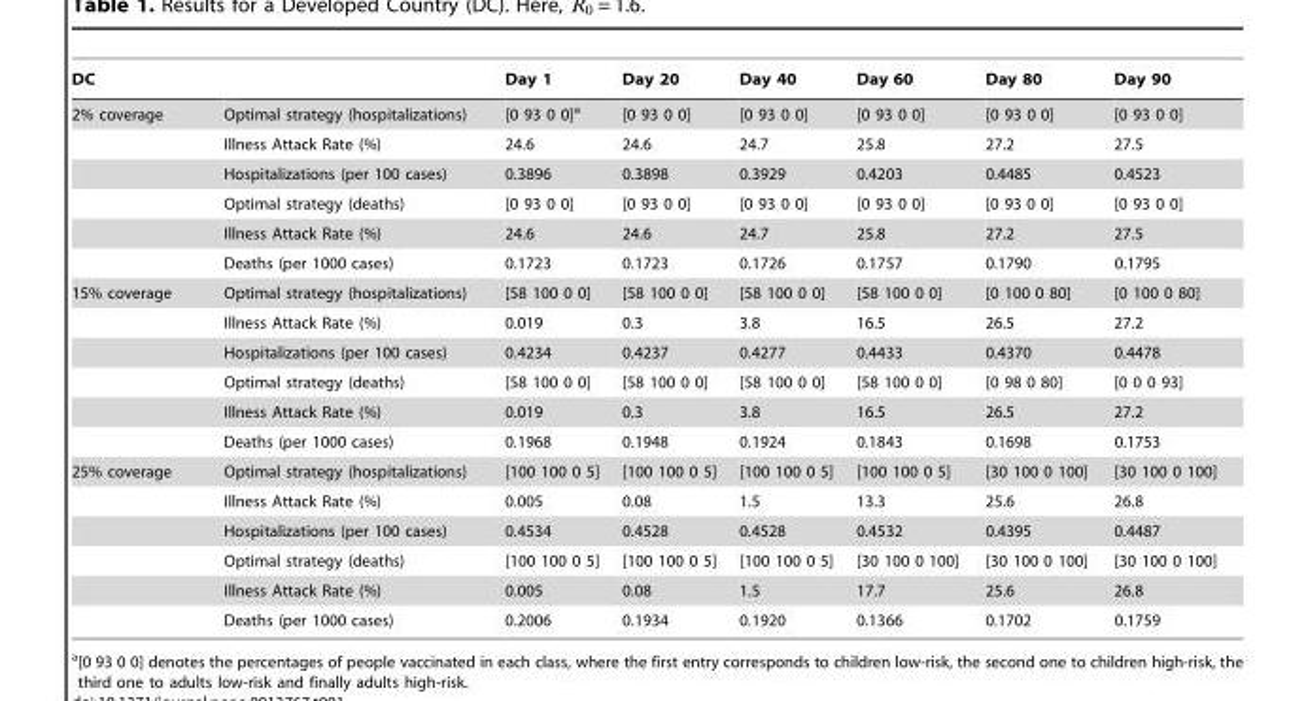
<table><thead><tr><td>DC</td><td></td><td>Day 1</td><td>Day 20</td><td>Day 40</td><td>Day 60</td><td>Day 80</td><td>Day 90</td></tr></thead><tbody><tr><td rowspan="6">2% coverage</td><td>Optimal strategy (hospitalizations)</td><td>[0 93 0 0]<sup>a</sup></td><td>[0 93 0 0]</td><td>[0 93 0 0]</td><td>[0 93 0 0]</td><td>[0 93 0 0]</td><td>[0 93 0 0]</td></tr><tr><td>Illness Attack Rate (%)</td><td>24.6</td><td>24.6</td><td>24.7</td><td>25.8</td><td>27.2</td><td>27.5</td></tr><tr><td>Hospitalizations (per 100 cases)</td><td>0.3896</td><td>0.3898</td><td>0.3929</td><td>0.4203</td><td>0.4485</td><td>0.4523</td></tr><tr><td>Optimal strategy (deaths)</td><td>[0 93 0 0]</td><td>[0 93 0 0]</td><td>[0 93 0 0]</td><td>[0 93 0 0]</td><td>[0 93 0 0]</td><td>[0 93 0 0]</td></tr><tr><td>Illness Attack Rate (%)</td><td>24.6</td><td>24.6</td><td>24.7</td><td>25.8</td><td>27.2</td><td>27.5</td></tr><tr><td>Deaths (per 1000 cases)</td><td>0.1723</td><td>0.1723</td><td>0.1726</td><td>0.1757</td><td>0.1790</td><td>0.1795</td></tr><tr><td rowspan="6">15% coverage</td><td>Optimal strategy (hospitalizations)</td><td>[58 100 0 0]</td><td>[58 100 0 0]</td><td>[58 100 0 0]</td><td>[58 100 0 0]</td><td>[0 100 0 80]</td><td>[0 100 0 80]</td></tr><tr><td>Illness Attack Rate (%)</td><td>0.019</td><td>0.3</td><td>3.8</td><td>16.5</td><td>26.5</td><td>27.2</td></tr><tr><td>Hospitalizations (per 100 cases)</td><td>0.4234</td><td>0.4237</td><td>0.4277</td><td>0.4433</td><td>0.4370</td><td>0.4478</td></tr><tr><td>Optimal strategy (deaths)</td><td>[58 100 0 0]</td><td>[58 100 0 0]</td><td>[58 100 0 0]</td><td>[58 100 0 0]</td><td>[0 98 0 80]</td><td>[0 0 0 93]</td></tr><tr><td>Illness Attack Rate (%)</td><td>0.019</td><td>0.3</td><td>3.8</td><td>16.5</td><td>26.5</td><td>27.2</td></tr><tr><td>Deaths (per 1000 cases)</td><td>0.1968</td><td>0.1948</td><td>0.1924</td><td>0.1843</td><td>0.1698</td><td>0.1753</td></tr><tr><td rowspan="6">25% coverage</td><td>Optimal strategy (hospitalizations)</td><td>[100 100 0 5]</td><td>[100 100 0 5]</td><td>[100 100 0 5]</td><td>[100 100 0 5]</td><td>[30 100 0 100]</td><td>[30 100 0 100]</td></tr><tr><td>Illness Attack Rate (%)</td><td>0.005</td><td>0.08</td><td>1.5</td><td>13.3</td><td>25.6</td><td>26.8</td></tr><tr><td>Hospitalizations (per 100 cases)</td><td>0.4534</td><td>0.4528</td><td>0.4528</td><td>0.4532</td><td>0.4395</td><td>0.4487</td></tr><tr><td>Optimal strategy (deaths)</td><td>[100 100 0 5]</td><td>[100 100 0 5]</td><td>[100 100 0 5]</td><td>[30 100 0 100]</td><td>[30 100 0 100]</td><td>[30 100 0 100]</td></tr><tr><td>Illness Attack Rate (%)</td><td>0.005</td><td>0.08</td><td>1.5</td><td>17.7</td><td>25.6</td><td>26.8</td></tr><tr><td>Deaths (per 1000 cases)</td><td>0.2006</td><td>0.1934</td><td>0.1920</td><td>0.1366</td><td>0.1702</td><td>0.1759</td></tr></tbody></table>